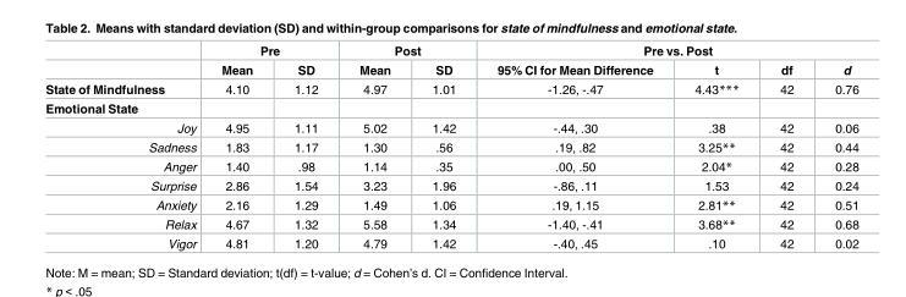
<table><thead><tr><td rowspan="2"></td><td colspan="2">Pre</td><td colspan="2">Post</td><td colspan="4">Pre vs. Post</td></tr><tr><td>Mean</td><td>SD</td><td>Mean</td><td>SD</td><td>95% CI for Mean Difference</td><td>t</td><td>df</td><td>d</td></tr></thead><tbody><tr><td>State of Mindfulness</td><td>4.10</td><td>1.12</td><td>4.97</td><td>1.01</td><td>-1.26, -.47</td><td>4.43***</td><td>42</td><td>0.76</td></tr><tr><td colspan="9">Emotional State</td></tr><tr><td>Joy</td><td>4.95</td><td>1.11</td><td>5.02</td><td>1.42</td><td>-.44, .30</td><td>.38</td><td>42</td><td>0.06</td></tr><tr><td>Sadness</td><td>1.83</td><td>1.17</td><td>1.30</td><td>.56</td><td>.19, .82</td><td>3.25**</td><td>42</td><td>0.44</td></tr><tr><td>Anger</td><td>1.40</td><td>.98</td><td>1.14</td><td>.35</td><td>.00, .50</td><td>2.04*</td><td>42</td><td>0.28</td></tr><tr><td>Surprise</td><td>2.86</td><td>1.54</td><td>3.23</td><td>1.96</td><td>-.86, .11</td><td>1.53</td><td>42</td><td>0.24</td></tr><tr><td>Anxiety</td><td>2.16</td><td>1.29</td><td>1.49</td><td>1.06</td><td>.19, 1.15</td><td>2.81**</td><td>42</td><td>0.51</td></tr><tr><td>Relax</td><td>4.67</td><td>1.32</td><td>5.58</td><td>1.34</td><td>-1.40, -.41</td><td>3.68**</td><td>42</td><td>0.68</td></tr><tr><td>Vigor</td><td>4.81</td><td>1.20</td><td>4.79</td><td>1.42</td><td>-.40, .45</td><td>.10</td><td>42</td><td>0.02</td></tr></tbody></table>